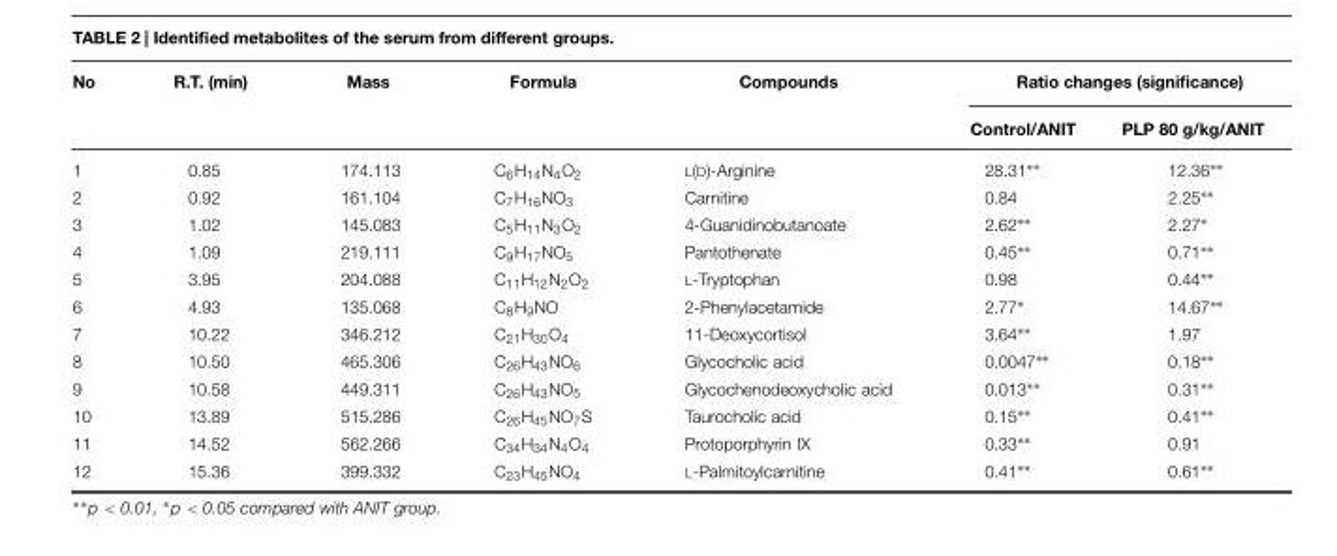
<table><thead><tr><td rowspan="2">No</td><td rowspan="2">R.T. (min)</td><td rowspan="2">Mass</td><td rowspan="2">Formula</td><td rowspan="2">Compounds</td><td colspan="2">Ratio changes (significance)</td></tr><tr><td>Control/ANIT</td><td>PLP 80 g/kg/ANIT</td></tr></thead><tbody><tr><td>1</td><td>0.85</td><td>174.113</td><td>C<sub>6</sub>H<sub>14</sub>N<sub>4</sub>O<sub>2</sub></td><td>L(D)-Arginine</td><td>28.31∗∗</td><td>12.36∗∗</td></tr><tr><td>2</td><td>0.92</td><td>161.104</td><td>C<sub>7</sub>H<sub>16</sub>NO<sub>3</sub></td><td>Carnitine</td><td>0.84</td><td>2.25∗∗</td></tr><tr><td>3</td><td>1.02</td><td>145.083</td><td>C<sub>5</sub>H<sub>11</sub>N<sub>3</sub>O<sub>2</sub></td><td>4-Guanidinobutanoate</td><td>2.62∗∗</td><td>2.27∗</td></tr><tr><td>4</td><td>1.09</td><td>219.111</td><td>C<sub>9</sub>H<sub>17</sub>NO<sub>5</sub></td><td>Pantothenate</td><td>0.45∗∗</td><td>0.71∗∗</td></tr><tr><td>5</td><td>3.95</td><td>204.088</td><td>C<sub>11</sub>H<sub>12</sub>N<sub>2</sub>O<sub>2</sub></td><td>L-Tryptophan</td><td>0.98</td><td>0.44∗∗</td></tr><tr><td>6</td><td>4.93</td><td>135.068</td><td>C<sub>8</sub>H<sub>9</sub>NO</td><td>2-Phenylacetamide</td><td>2.77∗</td><td>14.67∗∗</td></tr><tr><td>7</td><td>10.22</td><td>346.212</td><td>C<sub>21</sub>H<sub>30</sub>O<sub>4</sub></td><td>11-Deoxycortisol</td><td>3.64∗∗</td><td>1.97</td></tr><tr><td>8</td><td>10.50</td><td>465.306</td><td>C<sub>26</sub>H<sub>43</sub>NO<sub>6</sub></td><td>Glycocholic acid</td><td>0.0047∗∗</td><td>0.18∗∗</td></tr><tr><td>9</td><td>10.58</td><td>449.311</td><td>C<sub>26</sub>H<sub>43</sub>NO<sub>5</sub></td><td>Glycochenodeoxycholic acid</td><td>0.013∗∗</td><td>0.31∗∗</td></tr><tr><td>10</td><td>13.89</td><td>515.286</td><td>C<sub>26</sub>H<sub>45</sub>NO<sub>7</sub>S</td><td>Taurocholic acid</td><td>0.15∗∗</td><td>0.41∗∗</td></tr><tr><td>11</td><td>14.52</td><td>562.266</td><td>C<sub>34</sub>H<sub>34</sub>N<sub>4</sub>O<sub>4</sub></td><td>Protoporphyrin IX</td><td>0.33∗∗</td><td>0.91</td></tr><tr><td>12</td><td>15.36</td><td>399.332</td><td>C<sub>23</sub>H<sub>45</sub>NO<sub>4</sub></td><td>L-Palmitoylcarnitine</td><td>0.41∗∗</td><td>0.61∗∗</td></tr></tbody></table>